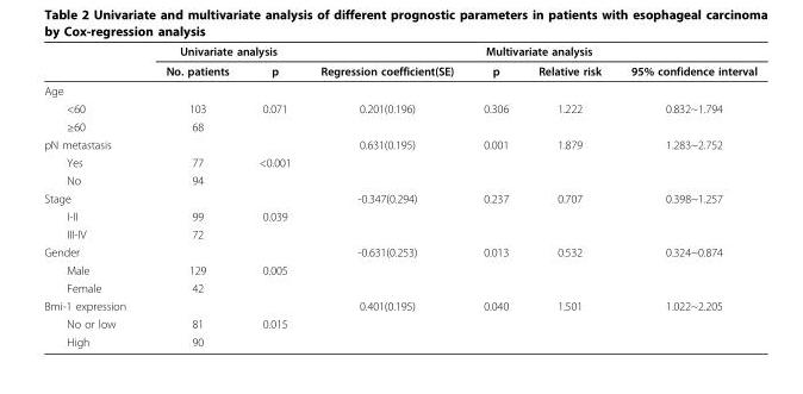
<table><thead><tr><td rowspan="2"></td><td colspan="2">Univariate analysis</td><td colspan="4">Multivariate analysis</td></tr><tr><td>No. patients</td><td>p</td><td>Regression coefficient(SE)</td><td>p</td><td>Relative risk</td><td>95% confidence interval</td></tr></thead><tbody><tr><td colspan="7">Age</td></tr><tr><td>&lt;60</td><td>103</td><td>0.071</td><td>0.201(0.196)</td><td>0.306</td><td>1.222</td><td>0.832~1.794</td></tr><tr><td>≥60</td><td>68</td><td></td><td></td><td></td><td></td><td></td></tr><tr><td>pN metastasis</td><td></td><td></td><td>0.631(0.195)</td><td>0.001</td><td>1.879</td><td>1.283~2.752</td></tr><tr><td>Yes</td><td>77</td><td>&lt;0.001</td><td></td><td></td><td></td><td></td></tr><tr><td>No</td><td>94</td><td></td><td></td><td></td><td></td><td></td></tr><tr><td>Stage</td><td></td><td></td><td>-0.347(0.294)</td><td>0.237</td><td>0.707</td><td>0.398~1.257</td></tr><tr><td>I-II</td><td>99</td><td>0.039</td><td></td><td></td><td></td><td></td></tr><tr><td>III-IV</td><td>72</td><td></td><td></td><td></td><td></td><td></td></tr><tr><td>Gender</td><td></td><td></td><td>-0.631(0.253)</td><td>0.013</td><td>0.532</td><td>0.324~0.874</td></tr><tr><td>Male</td><td>129</td><td>0.005</td><td></td><td></td><td></td><td></td></tr><tr><td>Female</td><td>42</td><td></td><td></td><td></td><td></td><td></td></tr><tr><td>Bmi-1 expression</td><td></td><td></td><td>0.401(0.195)</td><td>0.040</td><td>1.501</td><td>1.022~2.205</td></tr><tr><td>No or low</td><td>81</td><td>0.015</td><td></td><td></td><td></td><td></td></tr><tr><td>High</td><td>90</td><td></td><td></td><td></td><td></td><td></td></tr></tbody></table>